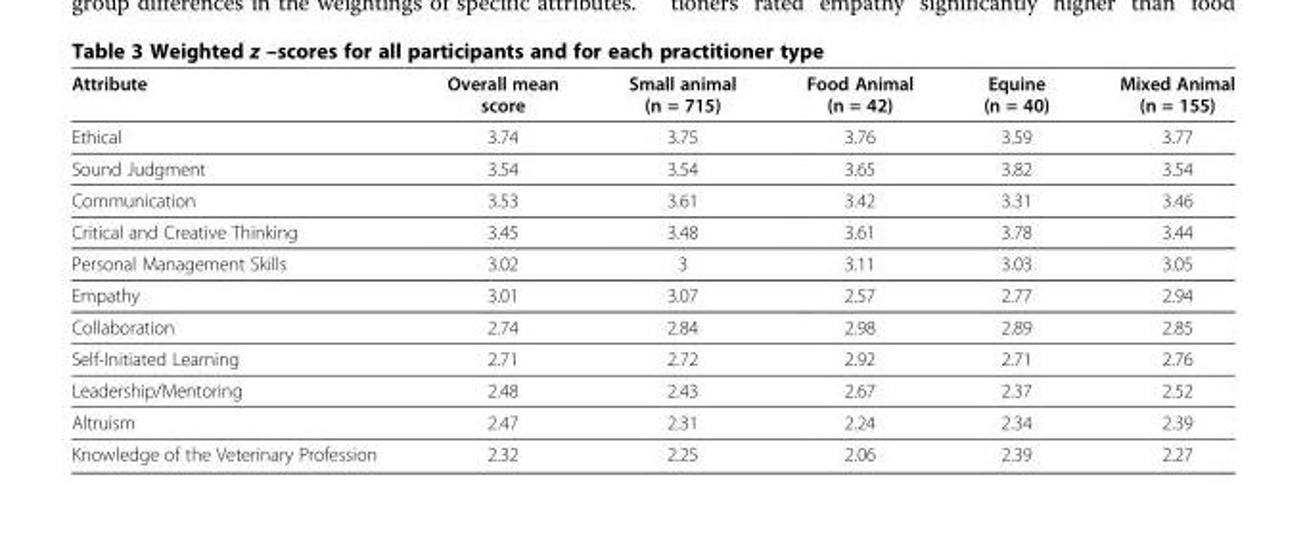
<table><thead><tr><td>Attribute</td><td>Overall mean score</td><td>Small animal (n = 715)</td><td>Food Animal (n = 42)</td><td>Equine (n = 40)</td><td>Mixed Animal (n = 155)</td></tr></thead><tbody><tr><td>Ethical</td><td>3.74</td><td>3.75</td><td>3.76</td><td>3.59</td><td>3.77</td></tr><tr><td>Sound Judgment</td><td>3.54</td><td>3.54</td><td>3.65</td><td>3.82</td><td>3.54</td></tr><tr><td>Communication</td><td>3.53</td><td>3.61</td><td>3.42</td><td>3.31</td><td>3.46</td></tr><tr><td>Critical and Creative Thinking</td><td>3.45</td><td>3.48</td><td>3.61</td><td>3.78</td><td>3.44</td></tr><tr><td>Personal Management Skills</td><td>3.02</td><td>3</td><td>3.11</td><td>3.03</td><td>3.05</td></tr><tr><td>Empathy</td><td>3.01</td><td>3.07</td><td>2.57</td><td>2.77</td><td>2.94</td></tr><tr><td>Collaboration</td><td>2.74</td><td>2.84</td><td>2.98</td><td>2.89</td><td>2.85</td></tr><tr><td>Self-Initiated Learning</td><td>2.71</td><td>2.72</td><td>2.92</td><td>2.71</td><td>2.76</td></tr><tr><td>Leadership/Mentoring</td><td>2.48</td><td>2.43</td><td>2.67</td><td>2.37</td><td>2.52</td></tr><tr><td>Altruism</td><td>2.47</td><td>2.31</td><td>2.24</td><td>2.34</td><td>2.39</td></tr><tr><td>Knowledge of the Veterinary Profession</td><td>2.32</td><td>2.25</td><td>2.06</td><td>2.39</td><td>2.27</td></tr></tbody></table>